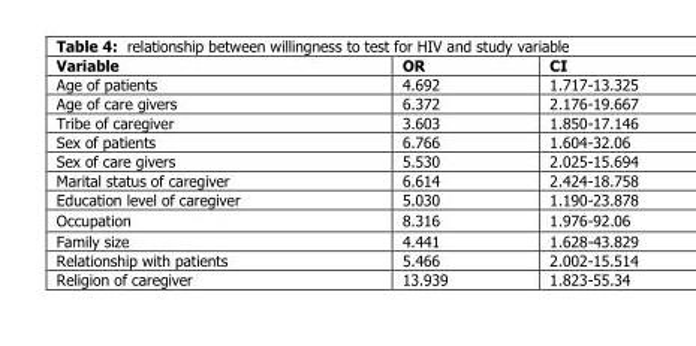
<table><thead><tr><td>Variable</td><td>OR</td><td>CI</td></tr></thead><tbody><tr><td>Age of patients</td><td>4.692</td><td>1.717-13.325</td></tr><tr><td>Age of care givers</td><td>6.372</td><td>2.176-19.667</td></tr><tr><td>Tribe of caregiver</td><td>3.603</td><td>1.850-17.146</td></tr><tr><td>Sex of patients</td><td>6.766</td><td>1.604-32.06</td></tr><tr><td>Sex of care givers</td><td>5.530</td><td>2.025-15.694</td></tr><tr><td>Marital status of caregiver</td><td>6.614</td><td>2.424-18.758</td></tr><tr><td>Education level of caregiver</td><td>5.030</td><td>1.190-23.878</td></tr><tr><td>Occupation</td><td>8.316</td><td>1.976-92.06</td></tr><tr><td>Family size</td><td>4.441</td><td>1.628-43.829</td></tr><tr><td>Relationship with patients</td><td>5.466</td><td>2.002-15.514</td></tr><tr><td>Religion of caregiver</td><td>13.939</td><td>1.823-55.34</td></tr></tbody></table>